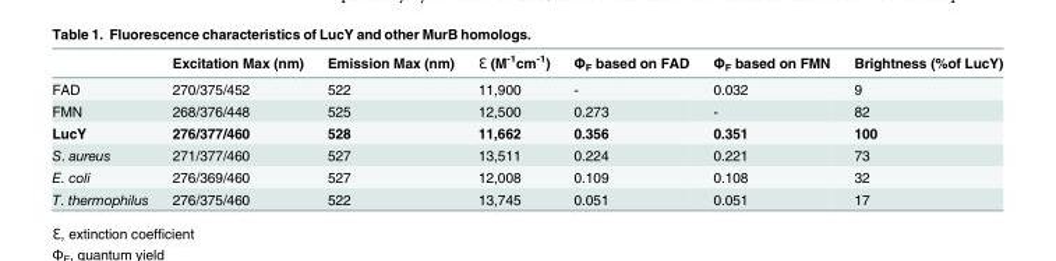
<table><thead><tr><td></td><td>Excitation Max (nm)</td><td>Emission Max (nm)</td><td>Ɛ (M<sup>-1</sup>cm<sup>-1</sup>)</td><td>Φ<sub>F</sub> based on FAD</td><td>Φ<sub>F</sub> based on FMN</td><td>Brightness (%of LucY)</td></tr></thead><tbody><tr><td>FAD</td><td>270/375/452</td><td>522</td><td>11,900</td><td>-</td><td>0.032</td><td>9</td></tr><tr><td>FMN</td><td>268/376/448</td><td>525</td><td>12,500</td><td>0.273</td><td>-</td><td>82</td></tr><tr><td>LucY</td><td>276/377/460</td><td>528</td><td>11,662</td><td>0.356</td><td>0.351</td><td>100</td></tr><tr><td>S. aureus</td><td>271/377/460</td><td>527</td><td>13,511</td><td>0.224</td><td>0.221</td><td>73</td></tr><tr><td>E. coli</td><td>276/369/460</td><td>527</td><td>12,008</td><td>0.109</td><td>0.108</td><td>32</td></tr><tr><td>T. thermophilus</td><td>276/375/460</td><td>522</td><td>13,745</td><td>0.051</td><td>0.051</td><td>17</td></tr></tbody></table>